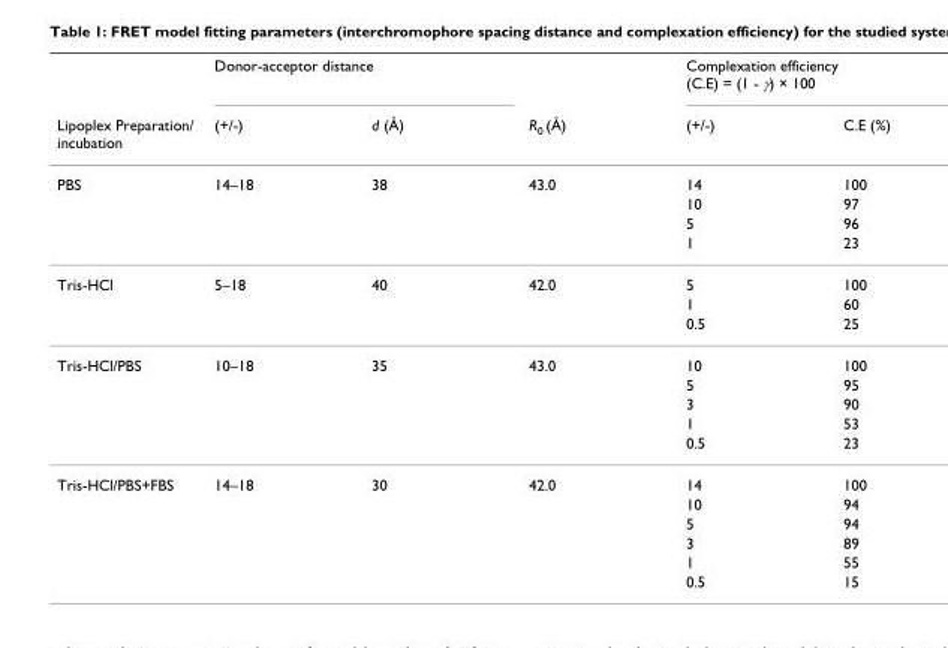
<table><thead><tr><td rowspan="2">Lipoplex Preparation/ incubation</td><td colspan="2">Donor-acceptor distance</td><td rowspan="2">R<sub>0</sub> (Å)</td><td colspan="2">Complexation efficiency (C.E) = (1 - γ) × 100</td></tr><tr><td>(+/-)</td><td>d (Å)</td><td>(+/-)</td><td>C.E (%)</td></tr></thead><tbody><tr><td rowspan="4">PBS</td><td>14–18</td><td>38</td><td>43.0</td><td>14</td><td>100</td></tr><tr><td></td><td></td><td></td><td>10</td><td>97</td></tr><tr><td></td><td></td><td></td><td>5</td><td>96</td></tr><tr><td></td><td></td><td></td><td>1</td><td>23</td></tr><tr><td rowspan="3">Tris-HCl</td><td>5–18</td><td>40</td><td>42.0</td><td>5</td><td>100</td></tr><tr><td></td><td></td><td></td><td>1</td><td>60</td></tr><tr><td></td><td></td><td></td><td>0.5</td><td>25</td></tr><tr><td rowspan="5">Tris-HCl/PBS</td><td>10–18</td><td>35</td><td>43.0</td><td>10</td><td>100</td></tr><tr><td></td><td></td><td></td><td>5</td><td>95</td></tr><tr><td></td><td></td><td></td><td>3</td><td>90</td></tr><tr><td></td><td></td><td></td><td>1</td><td>53</td></tr><tr><td></td><td></td><td></td><td>0.5</td><td>23</td></tr><tr><td rowspan="6">Tris-HCl/PBS+FBS</td><td>14–18</td><td>30</td><td>42.0</td><td>14</td><td>100</td></tr><tr><td></td><td></td><td></td><td>10</td><td>94</td></tr><tr><td></td><td></td><td></td><td>5</td><td>94</td></tr><tr><td></td><td></td><td></td><td>3</td><td>89</td></tr><tr><td></td><td></td><td></td><td>1</td><td>55</td></tr><tr><td></td><td></td><td></td><td>0.5</td><td>15</td></tr></tbody></table>